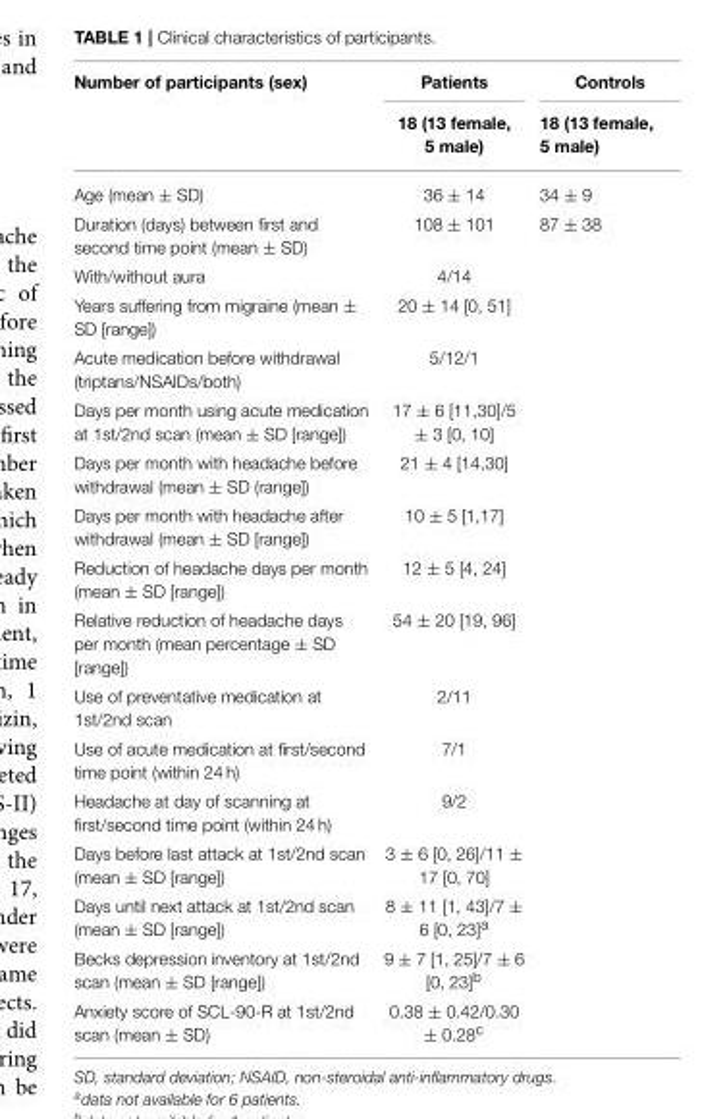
<table><thead><tr><td rowspan="2">Number of participants (sex)</td><td rowspan="2">Patients 18 (13 female, 5 male)</td><td rowspan="2">Controls 18 (13 female, 5 male)</td></tr><tr></tr></thead><tbody><tr><td>Age (mean ± SD)</td><td>36 ± 14</td><td>34 ± 9</td></tr><tr><td>Duration (days) between first and second time point (mean ± SD)</td><td>108 ± 101</td><td>87 ± 38</td></tr><tr><td>With/without aura</td><td>4/14</td><td></td></tr><tr><td>Years suffering from migraine (mean ± SD [range])</td><td>20 ± 14 [0, 51]</td><td></td></tr><tr><td>Acute medication before withdrawal (triptans/NSAIDs/both)</td><td>5/12/1</td><td></td></tr><tr><td>Days per month using acute medication at 1st/2nd scan (mean ± SD [range])</td><td>17 ± 6 [11,30]/5 ± 3 [0, 10]</td><td></td></tr><tr><td>Days per month with headache before withdrawal (mean ± SD (range])</td><td>21 ± 4 [14,30]</td><td></td></tr><tr><td>Days per month with headache after withdrawal (mean ± SD [range])</td><td>10 ± 5 [1,17]</td><td></td></tr><tr><td>Reduction of headache days per month (mean ± SD [range])</td><td>12 ± 5 [4, 24]</td><td></td></tr><tr><td>Relative reduction of headache days per month (mean percentage ± SD [range])</td><td>54 ± 20 [19, 96]</td><td></td></tr><tr><td>Use of preventative medication at 1st/2nd scan</td><td>2/11</td><td></td></tr><tr><td>Use of acute medication at first/second time point (within 24 h)</td><td>7/1</td><td></td></tr><tr><td>Headache at day of scanning at first/second time point (within 24 h)</td><td>9/2</td><td></td></tr><tr><td>Days before last attack at 1st/2nd scan (mean ± SD [range])</td><td>3 ± 6 [0, 26]/11 ± 17 [0, 70]</td><td></td></tr><tr><td>Days until next attack at 1st/2nd scan (mean ± SD [range])</td><td>8 ± 11 [1, 43]/7 ± 6 [0, 23]<sup>a</sup></td><td></td></tr><tr><td>Becks depression inventory at 1st/2nd scan (mean ± SD [range])</td><td>9 ± 7 [1, 25]/7 ± 6 [0, 23]<sup>b</sup></td><td></td></tr><tr><td>Anxiety score of SCL-90-R at 1st/2nd scan (mean ± SD)</td><td>0.38 ± 0.42/0.30 ± 0.28<sup>c</sup></td><td></td></tr></tbody></table>